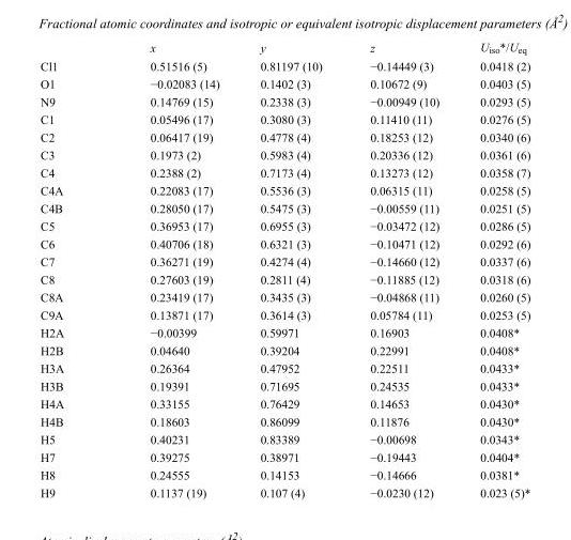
<table><thead><tr><td></td><td>x</td><td>y</td><td>z</td><td>U<sub>iso</sub>*/U<sub>eq</sub></td></tr></thead><tbody><tr><td>Cl1</td><td>0.51516 (5)</td><td>0.81197 (10)</td><td>−0.14449 (3)</td><td>0.0418 (2)</td></tr><tr><td>O1</td><td>−0.02083 (14)</td><td>0.1402 (3)</td><td>0.10672 (9)</td><td>0.0403 (5)</td></tr><tr><td>N9</td><td>0.14769 (15)</td><td>0.2338 (3)</td><td>−0.00949 (10)</td><td>0.0293 (5)</td></tr><tr><td>C1</td><td>0.05496 (17)</td><td>0.3080 (3)</td><td>0.11410 (11)</td><td>0.0276 (5)</td></tr><tr><td>C2</td><td>0.06417 (19)</td><td>0.4778 (4)</td><td>0.18253 (12)</td><td>0.0340 (6)</td></tr><tr><td>C3</td><td>0.1973 (2)</td><td>0.5983 (4)</td><td>0.20336 (12)</td><td>0.0361 (6)</td></tr><tr><td>C4</td><td>0.2388 (2)</td><td>0.7173 (4)</td><td>0.13273 (12)</td><td>0.0358 (7)</td></tr><tr><td>C4A</td><td>0.22083 (17)</td><td>0.5536 (3)</td><td>0.06315 (11)</td><td>0.0258 (5)</td></tr><tr><td>C4B</td><td>0.28050 (17)</td><td>0.5475 (3)</td><td>−0.00559 (11)</td><td>0.0251 (5)</td></tr><tr><td>C5</td><td>0.36953 (17)</td><td>0.6955 (3)</td><td>−0.03472 (12)</td><td>0.0286 (5)</td></tr><tr><td>C6</td><td>0.40706 (18)</td><td>0.6321 (3)</td><td>−0.10471 (12)</td><td>0.0292 (6)</td></tr><tr><td>C7</td><td>0.36271 (19)</td><td>0.4274 (4)</td><td>−0.14660 (12)</td><td>0.0337 (6)</td></tr><tr><td>C8</td><td>0.27603 (19)</td><td>0.2811 (4)</td><td>−0.11885 (12)</td><td>0.0318 (6)</td></tr><tr><td>C8A</td><td>0.23419 (17)</td><td>0.3435 (3)</td><td>−0.04868 (11)</td><td>0.0260 (5)</td></tr><tr><td>C9A</td><td>0.13871 (17)</td><td>0.3614 (3)</td><td>0.05784 (11)</td><td>0.0253 (5)</td></tr><tr><td>H2A</td><td>−0.00399</td><td>0.59971</td><td>0.16903</td><td>0.0408*</td></tr><tr><td>H2B</td><td>0.04640</td><td>0.39204</td><td>0.22991</td><td>0.0408*</td></tr><tr><td>H3A</td><td>0.26364</td><td>0.47952</td><td>0.22511</td><td>0.0433*</td></tr><tr><td>H3B</td><td>0.19391</td><td>0.71695</td><td>0.24535</td><td>0.0433*</td></tr><tr><td>H4A</td><td>0.33155</td><td>0.76429</td><td>0.14653</td><td>0.0430*</td></tr><tr><td>H4B</td><td>0.18603</td><td>0.86099</td><td>0.11876</td><td>0.0430*</td></tr><tr><td>H5</td><td>0.40231</td><td>0.83389</td><td>−0.00698</td><td>0.0343*</td></tr><tr><td>H7</td><td>0.39275</td><td>0.38971</td><td>−0.19443</td><td>0.0404*</td></tr><tr><td>H8</td><td>0.24555</td><td>0.14153</td><td>−0.14666</td><td>0.0381*</td></tr><tr><td>H9</td><td>0.1137 (19)</td><td>0.107 (4)</td><td>−0.0230 (12)</td><td>0.023 (5)*</td></tr></tbody></table>